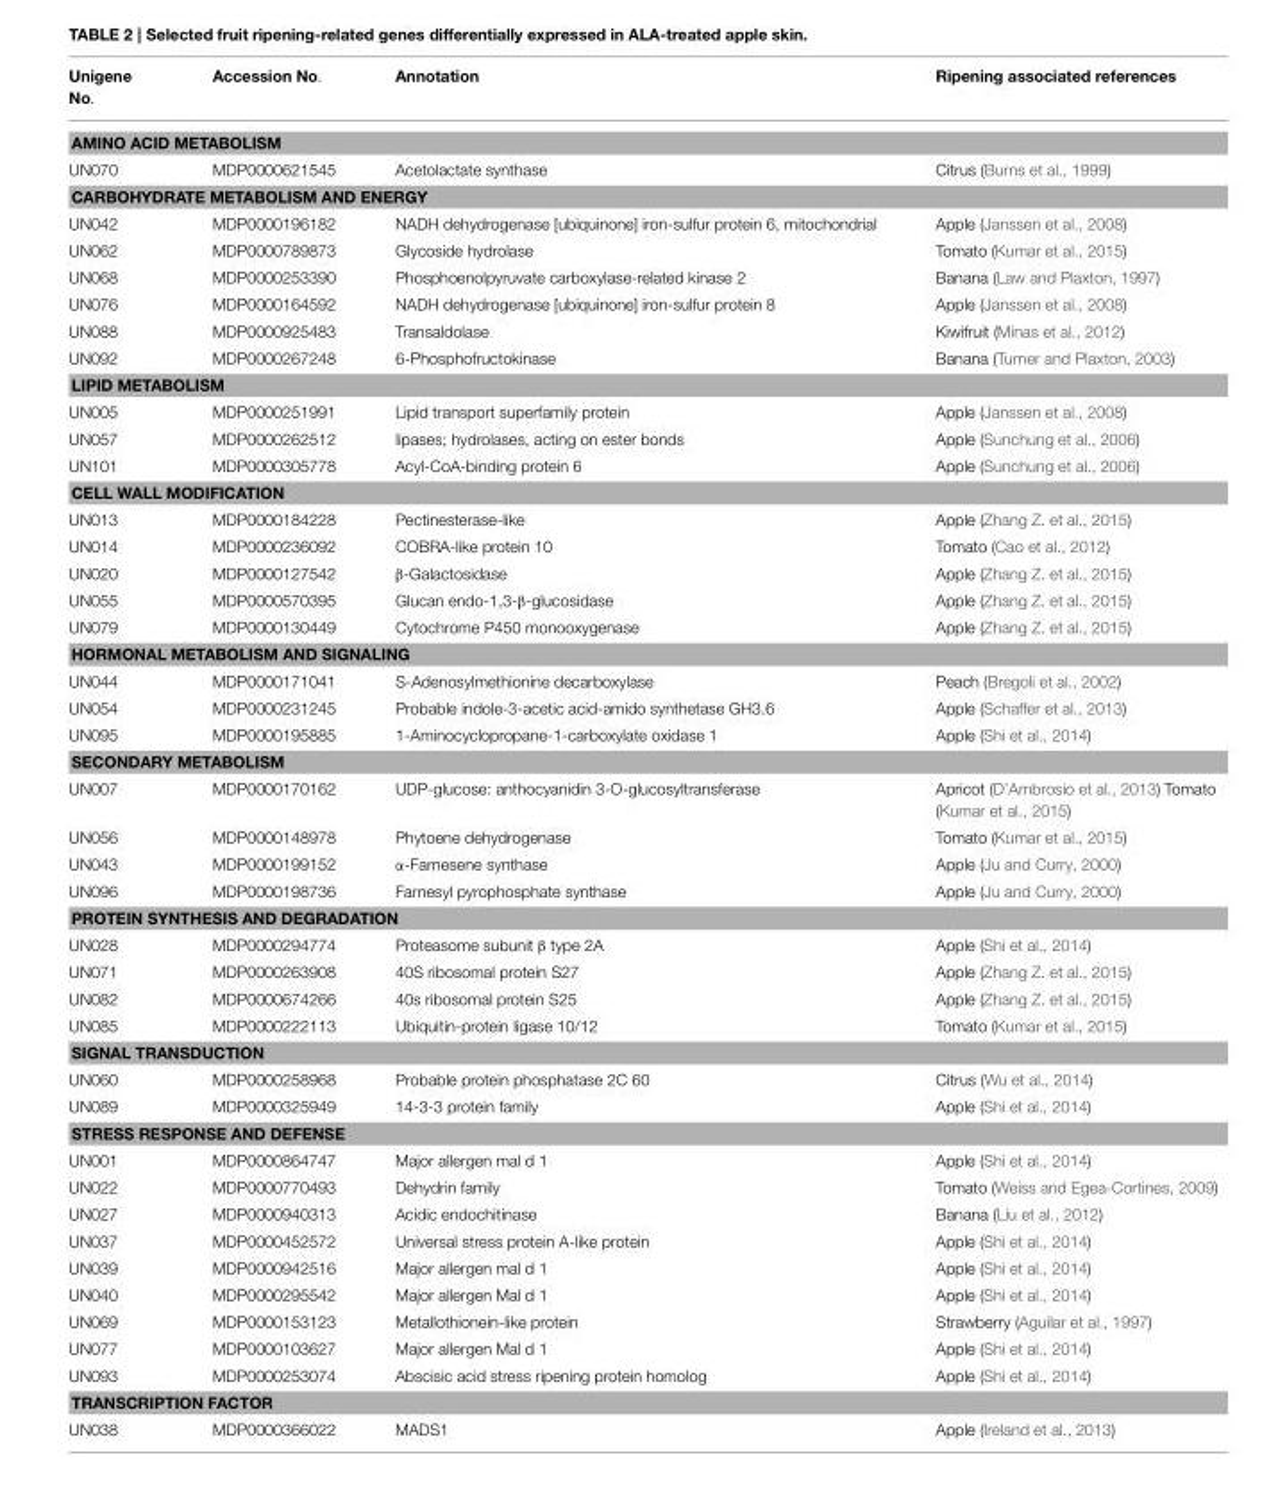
<table><thead><tr><td>Unigene No.</td><td>Accession No.</td><td>Annotation</td><td>Ripening associated references</td></tr></thead><tbody><tr><td colspan="4">AMINO ACID METABOLISM</td></tr><tr><td>UN070</td><td>MDP0000621545</td><td>Acetolactate synthase</td><td>Citrus (Burns et al., 1999)</td></tr><tr><td colspan="4">CARBOHYDRATE METABOLISM AND ENERGY</td></tr><tr><td>UN042</td><td>MDP0000196182</td><td>NADH dehydrogenase [ubiquinone] iron-sulfur protein 6, mitochondrial</td><td>Apple (Janssen et al., 2008)</td></tr><tr><td>UN062</td><td>MDP0000789873</td><td>Glycoside hydrolase</td><td>Tomato (Kumar et al., 2015)</td></tr><tr><td>UN068</td><td>MDP0000253390</td><td>Phosphoenolpyruvate carboxylase-related kinase 2</td><td>Banana (Law and Plaxton, 1997)</td></tr><tr><td>UN076</td><td>MDP0000164592</td><td>NADH dehydrogenase [ubiquinone] iron-sulfur protein 8</td><td>Apple (Janssen et al., 2008)</td></tr><tr><td>UN088</td><td>MDP0000925483</td><td>Transaldolase</td><td>Kiwifruit (Minas et al., 2012)</td></tr><tr><td>UN092</td><td>MDP0000267248</td><td>6-Phosphofructokinase</td><td>Banana (Turner and Plaxton, 2003)</td></tr><tr><td colspan="4">LIPID METABOLISM</td></tr><tr><td>UN005</td><td>MDP0000251991</td><td>Lipid transport superfamily protein</td><td>Apple (Janssen et al., 2008)</td></tr><tr><td>UN057</td><td>MDP0000262512</td><td>lipases; hydrolases, acting on ester bonds</td><td>Apple (Sunchung et al., 2006)</td></tr><tr><td>UN101</td><td>MDP0000305778</td><td>Acyl-CoA-binding protein 6</td><td>Apple (Sunchung et al., 2006)</td></tr><tr><td colspan="4">CELL WALL MODIFICATION</td></tr><tr><td>UN013</td><td>MDP0000184228</td><td>Pectinesterase-like</td><td>Apple (Zhang Z. et al., 2015)</td></tr><tr><td>UN014</td><td>MDP0000236092</td><td>COBRA-like protein 10</td><td>Tomato (Cao et al., 2012)</td></tr><tr><td>UN020</td><td>MDP0000127542</td><td>β-Galactosidase</td><td>Apple (Zhang Z. et al., 2015)</td></tr><tr><td>UN055</td><td>MDP0000570395</td><td>Glucan endo-1,3-β-glucosidase</td><td>Apple (Zhang Z. et al., 2015)</td></tr><tr><td>UN079</td><td>MDP0000130449</td><td>Cytochrome P450 monooxygenase</td><td>Apple (Zhang Z. et al., 2015)</td></tr><tr><td colspan="4">HORMONAL METABOLISM AND SIGNALING</td></tr><tr><td>UN044</td><td>MDP0000171041</td><td>S-Adenosylmethionine decarboxylase</td><td>Peach (Bregoli et al., 2002)</td></tr><tr><td>UN054</td><td>MDP0000231245</td><td>Probable indole-3-acetic acid-amido synthetase GH3.6</td><td>Apple (Schaffer et al., 2013)</td></tr><tr><td>UN095</td><td>MDP0000195885</td><td>1-Aminocyclopropane-1-carboxylate oxidase 1</td><td>Apple (Shi et al., 2014)</td></tr><tr><td colspan="4">SECONDARY METABOLISM</td></tr><tr><td>UN007</td><td>MDP0000170162</td><td>UDP-glucose: anthocyanidin 3-O-glucosyltransferase</td><td>Apricot (D’Ambrosio et al., 2013) Tomato (Kumar et al., 2015)</td></tr><tr><td>UN056</td><td>MDP0000148978</td><td>Phytoene dehydrogenase</td><td>Tomato (Kumar et al., 2015)</td></tr><tr><td>UN043</td><td>MDP0000199152</td><td>α-Farnesene synthase</td><td>Apple (Ju and Curry, 2000)</td></tr><tr><td>UN096</td><td>MDP0000198736</td><td>Farnesyl pyrophosphate synthase</td><td>Apple (Ju and Curry, 2000)</td></tr><tr><td colspan="4">PROTEIN SYNTHESIS AND DEGRADATION</td></tr><tr><td>UN028</td><td>MDP0000294774</td><td>Proteasome subunit β type 2A</td><td>Apple (Shi et al., 2014)</td></tr><tr><td>UN071</td><td>MDP0000263908</td><td>40S ribosomal protein S27</td><td>Apple (Zhang Z. et al., 2015)</td></tr><tr><td>UN082</td><td>MDP0000674266</td><td>40s ribosomal protein S25</td><td>Apple (Zhang Z. et al., 2015)</td></tr><tr><td>UN085</td><td>MDP0000222113</td><td>Ubiquitin-protein ligase 10/12</td><td>Tomato (Kumar et al., 2015)</td></tr><tr><td colspan="4">SIGNAL TRANSDUCTION</td></tr><tr><td>UN060</td><td>MDP0000258968</td><td>Probable protein phosphatase 2C 60</td><td>Citrus (Wu et al., 2014)</td></tr><tr><td>UN089</td><td>MDP0000325949</td><td>14-3-3 protein family</td><td>Apple (Shi et al., 2014)</td></tr><tr><td colspan="4">STRESS RESPONSE AND DEFENSE</td></tr><tr><td>UN001</td><td>MDP0000864747</td><td>Major allergen mal d 1</td><td>Apple (Shi et al., 2014)</td></tr><tr><td>UN022</td><td>MDP0000770493</td><td>Dehydrin family</td><td>Tomato (Weiss and Egea-Cortines, 2009)</td></tr><tr><td>UN027</td><td>MDP0000940313</td><td>Acidic endochitinase</td><td>Banana (Liu et al., 2012)</td></tr><tr><td>UN037</td><td>MDP0000452572</td><td>Universal stress protein A-like protein</td><td>Apple (Shi et al., 2014)</td></tr><tr><td>UN039</td><td>MDP0000942516</td><td>Major allergen mal d 1</td><td>Apple (Shi et al., 2014)</td></tr><tr><td>UN040</td><td>MDP0000295542</td><td>Major allergen Mal d 1</td><td>Apple (Shi et al., 2014)</td></tr><tr><td>UN069</td><td>MDP0000153123</td><td>Metallothionein-like protein</td><td>Strawberry (Aguilar et al., 1997)</td></tr><tr><td>UN077</td><td>MDP0000103627</td><td>Major allergen Mal d 1</td><td>Apple (Shi et al., 2014)</td></tr><tr><td>UN093</td><td>MDP0000253074</td><td>Abscisic acid stress ripening protein homolog</td><td>Apple (Shi et al., 2014)</td></tr><tr><td colspan="4">TRANSCRIPTION FACTOR</td></tr><tr><td>UN038</td><td>MDP0000366022</td><td>MADS1</td><td>Apple (Ireland et al., 2013)</td></tr></tbody></table>